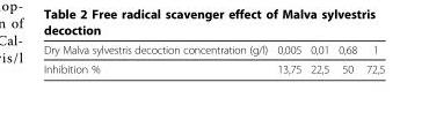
<table><thead><tr><td>Dry Malva sylvestris decoction concentration (g/l)</td><td>0,005</td><td>0,01</td><td>0,68</td><td>1</td></tr></thead><tbody><tr><td>Inhibition %</td><td>13,75</td><td>22,5</td><td>50</td><td>72,5</td></tr></tbody></table>